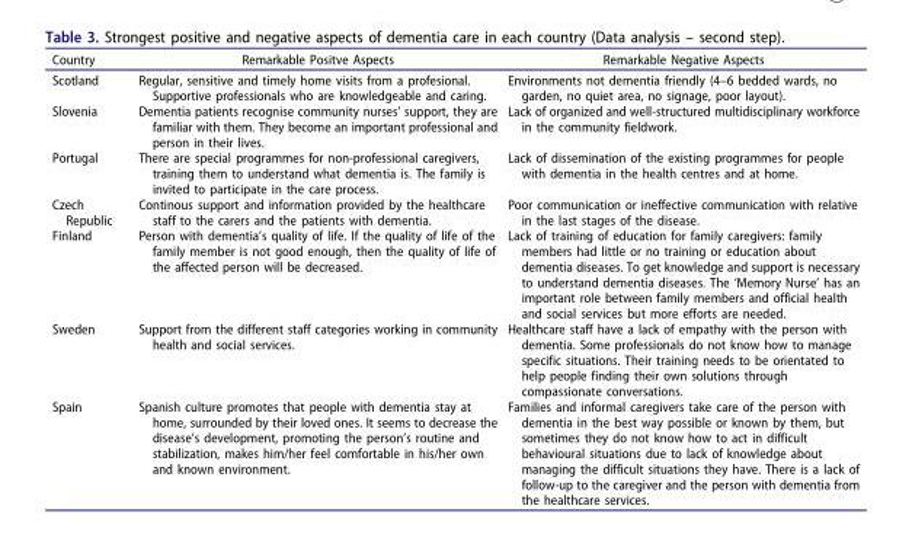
<table><thead><tr><td>Country</td><td>Remarkable Positve Aspects</td><td>Remarkable Negative Aspects</td></tr></thead><tbody><tr><td>Scotland</td><td>Regular, sensitive and timely home visits from a profesional. Supportive professionals who are knowledgeable and caring.</td><td>Environments not dementia friendly (4–6 bedded wards, no garden, no quiet area, no signage, poor layout).</td></tr><tr><td>Slovenia</td><td>Dementia patients recognise community nurses’ support, they are familiar with them. They become an important professional and person in their lives.</td><td>Lack of organized and well-structured multidisciplinary workforce in the community fieldwork.</td></tr><tr><td>Portugal</td><td>There are special programmes for non-professional caregivers, training them to understand what dementia is. The family is invited to participate in the care process.</td><td>Lack of dissemination of the existing programmes for people with dementia in the health centres and at home.</td></tr><tr><td>Czech Republic</td><td>Continous support and information provided by the healthcare staff to the carers and the patients with dementia.</td><td>Poor communication or ineffective communication with relative in the last stages of the disease.</td></tr><tr><td>Finland</td><td>Person with dementia’s quality of life. If the quality of life of the family member is not good enough, then the quality of life of the affected person will be decreased.</td><td>Lack of training of education for family caregivers: family members had little or no training or education about dementia diseases. To get knowledge and support is necessary to understand dementia diseases. The ‘Memory Nurse’ has an important role between family members and official health and social services but more efforts are needed.</td></tr><tr><td>Sweden</td><td>Support from the different staff categories working in community health and social services.</td><td>Healthcare staff have a lack of empathy with the person with dementia. Some professionals do not know how to manage specific situations. Their training needs to be orientated to help people finding their own solutions through compassionate conversations.</td></tr><tr><td>Spain</td><td>Spanish culture promotes that people with dementia stay at home, surrounded by their loved ones. It seems to decrease the disease’s development, promoting the person’s routine and stabilization, makes him/her feel comfortable in his/her own and known environment.</td><td>Families and informal caregivers take care of the person with dementia in the best way possible or known by them, but sometimes they do not know how to act in difficult behavioural situations due to lack of knowledge about managing the difficult situations they have. There is a lack of follow-up to the caregiver and the person with dementia from the healthcare services.</td></tr></tbody></table>